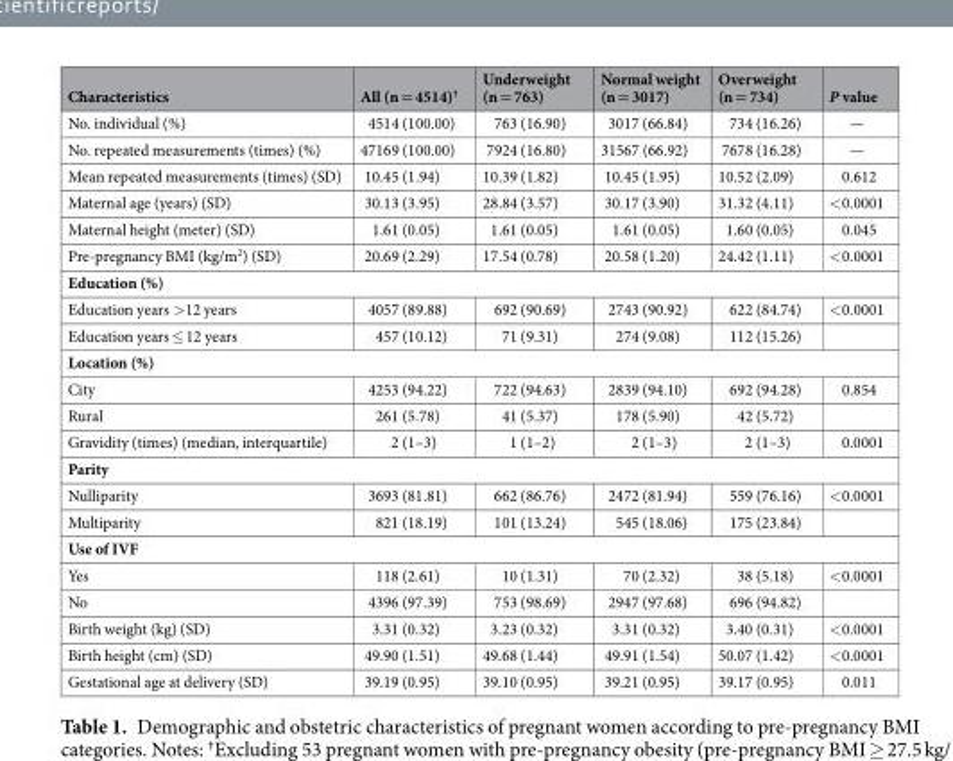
<table><thead><tr><td>Characteristics</td><td>All (n = 4514)<sup>†</sup></td><td>Underweight (n = 763)</td><td>Normal weight (n = 3017)</td><td>Overweight (n = 734)</td><td>P value</td></tr></thead><tbody><tr><td>No. individual (%)</td><td>4514 (100.00)</td><td>763 (16.90)</td><td>3017 (66.84)</td><td>734 (16.26)</td><td>—</td></tr><tr><td>No. repeated measurements (times) (%)</td><td>47169 (100.00)</td><td>7924 (16.80)</td><td>31567 (66.92)</td><td>7678 (16.28)</td><td>—</td></tr><tr><td>Mean repeated measurements (times) (SD)</td><td>10.45 (1.94)</td><td>10.39 (1.82)</td><td>10.45 (1.95)</td><td>10.52 (2.09)</td><td>0.612</td></tr><tr><td>Maternal age (years) (SD)</td><td>30.13 (3.95)</td><td>28.84 (3.57)</td><td>30.17 (3.90)</td><td>31.32 (4.11)</td><td>&lt;0.0001</td></tr><tr><td>Maternal height (meter) (SD)</td><td>1.61 (0.05)</td><td>1.61 (0.05)</td><td>1.61 (0.05)</td><td>1.60 (0.05)</td><td>0.045</td></tr><tr><td>Pre-pregnancy BMI (kg/m<sup>2</sup>) (SD)</td><td>20.69 (2.29)</td><td>17.54 (0.78)</td><td>20.58 (1.20)</td><td>24.42 (1.11)</td><td>&lt;0.0001</td></tr><tr><td colspan="6">Education (%)</td></tr><tr><td>Education years &gt;12 years</td><td>4057 (89.88)</td><td>692 (90.69)</td><td>2743 (90.92)</td><td>622 (84.74)</td><td>&lt;0.0001</td></tr><tr><td>Education years ≤ 12 years</td><td>457 (10.12)</td><td>71 (9.31)</td><td>274 (9.08)</td><td>112 (15.26)</td><td></td></tr><tr><td colspan="6">Location (%)</td></tr><tr><td>City</td><td>4253 (94.22)</td><td>722 (94.63)</td><td>2839 (94.10)</td><td>692 (94.28)</td><td>0.854</td></tr><tr><td>Rural</td><td>261 (5.78)</td><td>41 (5.37)</td><td>178 (5.90)</td><td>42 (5.72)</td><td></td></tr><tr><td>Gravidity (times) (median, interquartile)</td><td>2 (1–3)</td><td>1 (1–2)</td><td>2 (1–3)</td><td>2 (1–3)</td><td>0.0001</td></tr><tr><td colspan="6">Parity</td></tr><tr><td>Nulliparity</td><td>3693 (81.81)</td><td>662 (86.76)</td><td>2472 (81.94)</td><td>559 (76.16)</td><td>&lt;0.0001</td></tr><tr><td>Multiparity</td><td>821 (18.19)</td><td>101 (13.24)</td><td>545 (18.06)</td><td>175 (23.84)</td><td></td></tr><tr><td colspan="6">Use of IVF</td></tr><tr><td>Yes</td><td>118 (2.61)</td><td>10 (1.31)</td><td>70 (2.32)</td><td>38 (5.18)</td><td>&lt;0.0001</td></tr><tr><td>No</td><td>4396 (97.39)</td><td>753 (98.69)</td><td>2947 (97.68)</td><td>696 (94.82)</td><td></td></tr><tr><td>Birth weight (kg) (SD)</td><td>3.31 (0.32)</td><td>3.23 (0.32)</td><td>3.31 (0.32)</td><td>3.40 (0.31)</td><td>&lt;0.0001</td></tr><tr><td>Birth height (cm) (SD)</td><td>49.90 (1.51)</td><td>49.68 (1.44)</td><td>49.91 (1.54)</td><td>50.07 (1.42)</td><td>&lt;0.0001</td></tr><tr><td>Gestational age at delivery (SD)</td><td>39.19 (0.95)</td><td>39.10 (0.95)</td><td>39.21 (0.95)</td><td>39.17 (0.95)</td><td>0.011</td></tr></tbody></table>